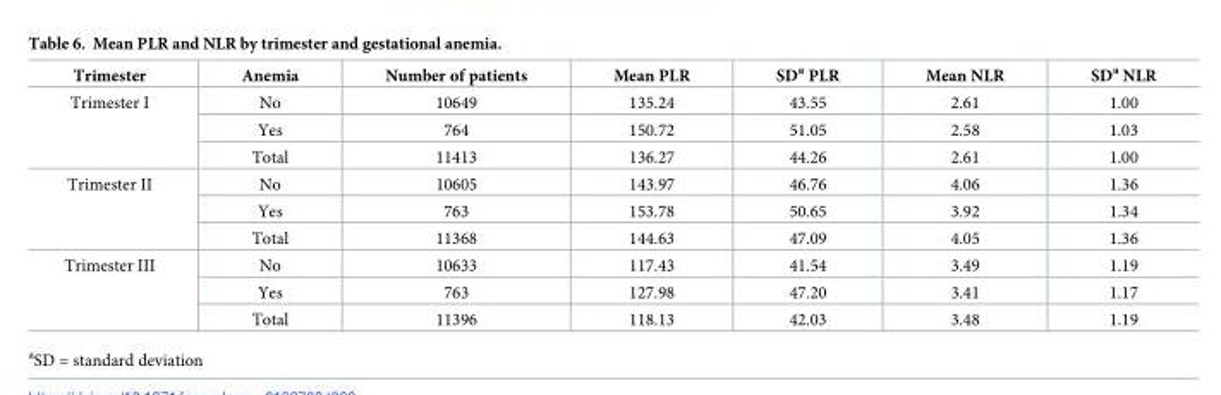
<table><thead><tr><td>Trimester</td><td>Anemia</td><td>Number of patients</td><td>Mean PLR</td><td>SD<sup>a</sup> PLR</td><td>Mean NLR</td><td>SD<sup>a</sup> NLR</td></tr></thead><tbody><tr><td rowspan="3">Trimester I</td><td>No</td><td>10649</td><td>135.24</td><td>43.55</td><td>2.61</td><td>1.00</td></tr><tr><td>Yes</td><td>764</td><td>150.72</td><td>51.05</td><td>2.58</td><td>1.03</td></tr><tr><td>Total</td><td>11413</td><td>136.27</td><td>44.26</td><td>2.61</td><td>1.00</td></tr><tr><td rowspan="3">Trimester II</td><td>No</td><td>10605</td><td>143.97</td><td>46.76</td><td>4.06</td><td>1.36</td></tr><tr><td>Yes</td><td>763</td><td>153.78</td><td>50.65</td><td>3.92</td><td>1.34</td></tr><tr><td>Total</td><td>11368</td><td>144.63</td><td>47.09</td><td>4.05</td><td>1.36</td></tr><tr><td rowspan="3">Trimester III</td><td>No</td><td>10633</td><td>117.43</td><td>41.54</td><td>3.49</td><td>1.19</td></tr><tr><td>Yes</td><td>763</td><td>127.98</td><td>47.20</td><td>3.41</td><td>1.17</td></tr><tr><td>Total</td><td>11396</td><td>118.13</td><td>42.03</td><td>3.48</td><td>1.19</td></tr></tbody></table>